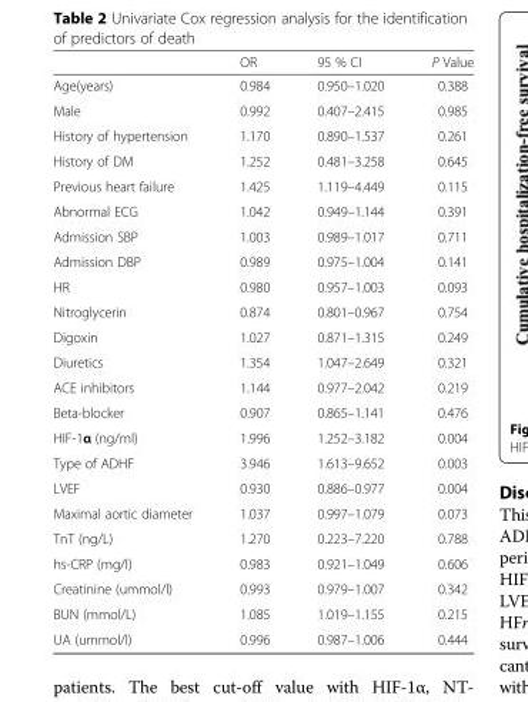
<table><thead><tr><td></td><td>OR</td><td>95 % CI</td><td>P Value</td></tr></thead><tbody><tr><td>Age(years)</td><td>0.984</td><td>0.950–1.020</td><td>0.388</td></tr><tr><td>Male</td><td>0.992</td><td>0.407–2.415</td><td>0.985</td></tr><tr><td>History of hypertension</td><td>1.170</td><td>0.890–1.537</td><td>0.261</td></tr><tr><td>History of DM</td><td>1.252</td><td>0.481–3.258</td><td>0.645</td></tr><tr><td>Previous heart failure</td><td>1.425</td><td>1.119–4.449</td><td>0.115</td></tr><tr><td>Abnormal ECG</td><td>1.042</td><td>0.949–1.144</td><td>0.391</td></tr><tr><td>Admission SBP</td><td>1.003</td><td>0.989–1.017</td><td>0.711</td></tr><tr><td>Admission DBP</td><td>0.989</td><td>0.975–1.004</td><td>0.141</td></tr><tr><td>HR</td><td>0.980</td><td>0.957–1.003</td><td>0.093</td></tr><tr><td>Nitroglycerin</td><td>0.874</td><td>0.801–0.967</td><td>0.754</td></tr><tr><td>Digoxin</td><td>1.027</td><td>0.871–1.315</td><td>0.249</td></tr><tr><td>Diuretics</td><td>1.354</td><td>1.047–2.649</td><td>0.321</td></tr><tr><td>ACE inhibitors</td><td>1.144</td><td>0.977–2.042</td><td>0.219</td></tr><tr><td>Beta-blocker</td><td>0.907</td><td>0.865–1.141</td><td>0.476</td></tr><tr><td>HIF-1α (ng/ml)</td><td>1.996</td><td>1.252–3.182</td><td>0.004</td></tr><tr><td>Type of ADHF</td><td>3.946</td><td>1.613–9.652</td><td>0.003</td></tr><tr><td>LVEF</td><td>0.930</td><td>0.886–0.977</td><td>0.004</td></tr><tr><td>Maximal aortic diameter</td><td>1.037</td><td>0.997–1.079</td><td>0.073</td></tr><tr><td>TnT (ng/L)</td><td>1.270</td><td>0.223–7.220</td><td>0.788</td></tr><tr><td>hs-CRP (mg/l)</td><td>0.983</td><td>0.921–1.049</td><td>0.606</td></tr><tr><td>Creatinine (ummol/l)</td><td>0.993</td><td>0.979–1.007</td><td>0.342</td></tr><tr><td>BUN (mmol/L)</td><td>1.085</td><td>1.019–1.155</td><td>0.215</td></tr><tr><td>UA (ummol/l)</td><td>0.996</td><td>0.987–1.006</td><td>0.444</td></tr></tbody></table>